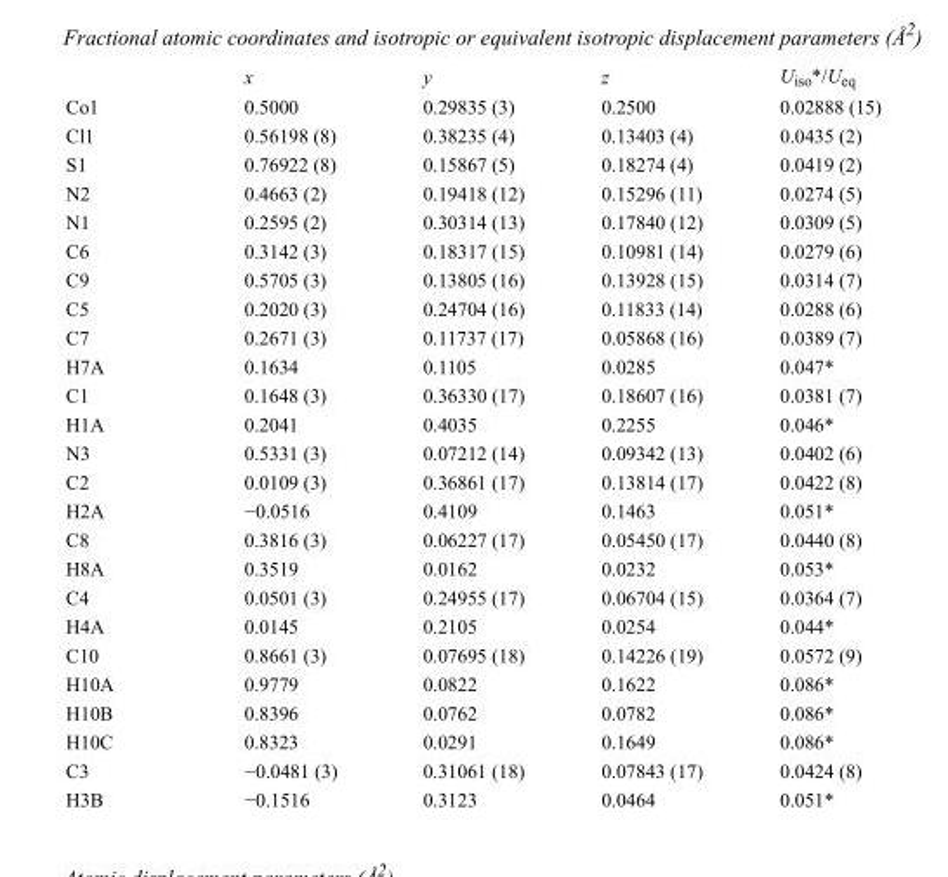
<table><thead><tr><td></td><td>x</td><td>y</td><td>z</td><td>U<sub>iso</sub>*/U<sub>eq</sub></td></tr></thead><tbody><tr><td>Co1</td><td>0.5000</td><td>0.29835 (3)</td><td>0.2500</td><td>0.02888 (15)</td></tr><tr><td>Cl1</td><td>0.56198 (8)</td><td>0.38235 (4)</td><td>0.13403 (4)</td><td>0.0435 (2)</td></tr><tr><td>S1</td><td>0.76922 (8)</td><td>0.15867 (5)</td><td>0.18274 (4)</td><td>0.0419 (2)</td></tr><tr><td>N2</td><td>0.4663 (2)</td><td>0.19418 (12)</td><td>0.15296 (11)</td><td>0.0274 (5)</td></tr><tr><td>N1</td><td>0.2595 (2)</td><td>0.30314 (13)</td><td>0.17840 (12)</td><td>0.0309 (5)</td></tr><tr><td>C6</td><td>0.3142 (3)</td><td>0.18317 (15)</td><td>0.10981 (14)</td><td>0.0279 (6)</td></tr><tr><td>C9</td><td>0.5705 (3)</td><td>0.13805 (16)</td><td>0.13928 (15)</td><td>0.0314 (7)</td></tr><tr><td>C5</td><td>0.2020 (3)</td><td>0.24704 (16)</td><td>0.11833 (14)</td><td>0.0288 (6)</td></tr><tr><td>C7</td><td>0.2671 (3)</td><td>0.11737 (17)</td><td>0.05868 (16)</td><td>0.0389 (7)</td></tr><tr><td>H7A</td><td>0.1634</td><td>0.1105</td><td>0.0285</td><td>0.047*</td></tr><tr><td>C1</td><td>0.1648 (3)</td><td>0.36330 (17)</td><td>0.18607 (16)</td><td>0.0381 (7)</td></tr><tr><td>H1A</td><td>0.2041</td><td>0.4035</td><td>0.2255</td><td>0.046*</td></tr><tr><td>N3</td><td>0.5331 (3)</td><td>0.07212 (14)</td><td>0.09342 (13)</td><td>0.0402 (6)</td></tr><tr><td>C2</td><td>0.0109 (3)</td><td>0.36861 (17)</td><td>0.13814 (17)</td><td>0.0422 (8)</td></tr><tr><td>H2A</td><td>−0.0516</td><td>0.4109</td><td>0.1463</td><td>0.051*</td></tr><tr><td>C8</td><td>0.3816 (3)</td><td>0.06227 (17)</td><td>0.05450 (17)</td><td>0.0440 (8)</td></tr><tr><td>H8A</td><td>0.3519</td><td>0.0162</td><td>0.0232</td><td>0.053*</td></tr><tr><td>C4</td><td>0.0501 (3)</td><td>0.24955 (17)</td><td>0.06704 (15)</td><td>0.0364 (7)</td></tr><tr><td>H4A</td><td>0.0145</td><td>0.2105</td><td>0.0254</td><td>0.044*</td></tr><tr><td>C10</td><td>0.8661 (3)</td><td>0.07695 (18)</td><td>0.14226 (19)</td><td>0.0572 (9)</td></tr><tr><td>H10A</td><td>0.9779</td><td>0.0822</td><td>0.1622</td><td>0.086*</td></tr><tr><td>H10B</td><td>0.8396</td><td>0.0762</td><td>0.0782</td><td>0.086*</td></tr><tr><td>H10C</td><td>0.8323</td><td>0.0291</td><td>0.1649</td><td>0.086*</td></tr><tr><td>C3</td><td>−0.0481 (3)</td><td>0.31061 (18)</td><td>0.07843 (17)</td><td>0.0424 (8)</td></tr><tr><td>H3B</td><td>−0.1516</td><td>0.3123</td><td>0.0464</td><td>0.051*</td></tr></tbody></table>